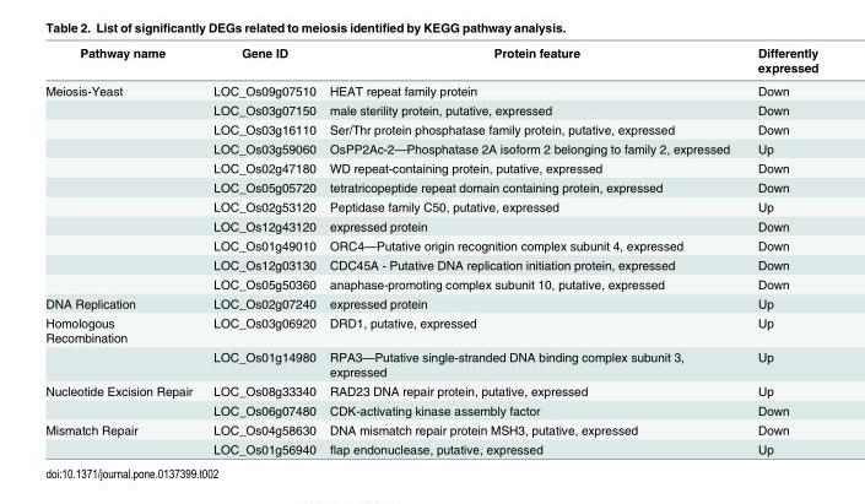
<table><thead><tr><td>Pathway name</td><td>Gene ID</td><td>Protein feature</td><td>Differently expressed</td></tr></thead><tbody><tr><td rowspan="11">Meiosis-Yeast</td><td>LOC_Os09g07510</td><td>HEAT repeat family protein</td><td>Down</td></tr><tr><td>LOC_Os03g07150</td><td>male sterility protein, putative, expressed</td><td>Down</td></tr><tr><td>LOC_Os03g16110</td><td>Ser/Thr protein phosphatase family protein, putative, expressed</td><td>Down</td></tr><tr><td>LOC_Os03g59060</td><td>OsPP2Ac-2—Phosphatase 2A isoform 2 belonging to family 2, expressed</td><td>Up</td></tr><tr><td>LOC_Os02g47180</td><td>WD repeat-containing protein, putative, expressed</td><td>Down</td></tr><tr><td>LOC_Os05g05720</td><td>tetratricopeptide repeat domain containing protein, expressed</td><td>Down</td></tr><tr><td>LOC_Os02g53120</td><td>Peptidase family C50, putative, expressed</td><td>Up</td></tr><tr><td>LOC_Os12g43120</td><td>expressed protein</td><td>Down</td></tr><tr><td>LOC_Os01g49010</td><td>ORC4—Putative origin recognition complex subunit 4, expressed</td><td>Down</td></tr><tr><td>LOC_Os12g03130</td><td>CDC45A - Putative DNA replication initiation protein, expressed</td><td>Down</td></tr><tr><td>LOC_Os05g50360</td><td>anaphase-promoting complex subunit 10, putative, expressed</td><td>Down</td></tr><tr><td>DNA Replication</td><td>LOC_Os02g07240</td><td>expressed protein</td><td>Up</td></tr><tr><td rowspan="2">Homologous Recombination</td><td>LOC_Os03g06920</td><td>DRD1, putative, expressed</td><td>Up</td></tr><tr><td>LOC_Os01g14980</td><td>RPA3—Putative single-stranded DNA binding complex subunit 3, expressed</td><td>Up</td></tr><tr><td rowspan="2">Nucleotide Excision Repair</td><td>LOC_Os08g33340</td><td>RAD23 DNA repair protein, putative, expressed</td><td>Up</td></tr><tr><td>LOC_Os06g07480</td><td>CDK-activating kinase assembly factor</td><td>Down</td></tr><tr><td rowspan="2">Mismatch Repair</td><td>LOC_Os04g58630</td><td>DNA mismatch repair protein MSH3, putative, expressed</td><td>Down</td></tr><tr><td>LOC_Os01g56940</td><td>flap endonuclease, putative, expressed</td><td>Up</td></tr></tbody></table>